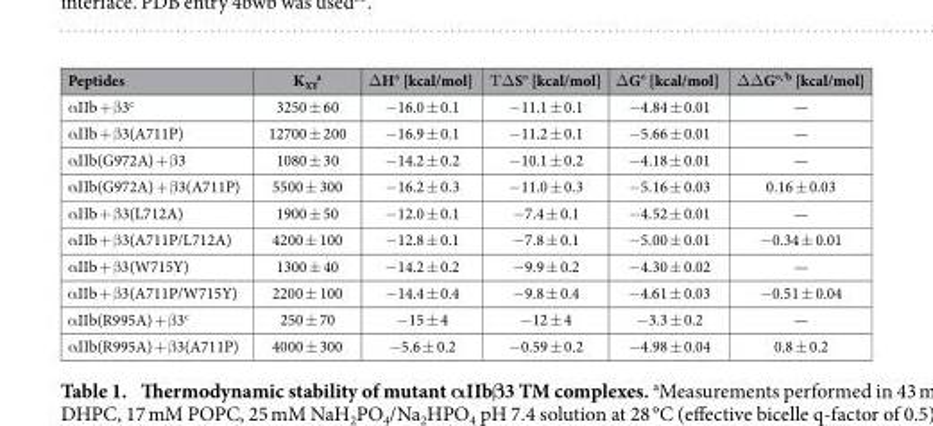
<table><thead><tr><td>Peptides</td><td>K<sub>XY</sub> <sup>a</sup></td><td>Δ H° [kcal/mol]</td><td>Τ Δ S° [kcal/mol]</td><td>Δ G° [kcal/mol]</td><td>Δ Δ G°<sup>,′b</sup> [kcal/mol]</td></tr></thead><tbody><tr><td>α IIb + β 3<sup>c</sup></td><td>3250 ± 60</td><td>− 16.0 ± 0.1</td><td>− 11.1 ± 0.1</td><td>− 4.84 ± 0.01</td><td>—</td></tr><tr><td>α IIb + β 3(A711P)</td><td>12700 ± 200</td><td>− 16.9 ± 0.1</td><td>− 11.2 ± 0.1</td><td>− 5.66 ± 0.01</td><td>—</td></tr><tr><td>α IIb(G972A) + β 3</td><td>1080 ± 30</td><td>− 14.2 ± 0.2</td><td>− 10.1 ± 0.2</td><td>− 4.18 ± 0.01</td><td>—</td></tr><tr><td>α IIb(G972A) + β 3(A711P)</td><td>5500 ± 300</td><td>− 16.2 ± 0.3</td><td>− 11.0 ± 0.3</td><td>− 5.16 ± 0.03</td><td>0.16 ± 0.03</td></tr><tr><td>α IIb + β 3(L712A)</td><td>1900 ± 50</td><td>− 12.0 ± 0.1</td><td>− 7.4 ± 0.1</td><td>− 4.52 ± 0.01</td><td>—</td></tr><tr><td>α IIb + β 3(A711P/L712A)</td><td>4200 ± 100</td><td>− 12.8 ± 0.1</td><td>− 7.8 ± 0.1</td><td>− 5.00 ± 0.01</td><td>− 0.34 ± 0.01</td></tr><tr><td>α IIb + β 3(W715Y)</td><td>1300 ± 40</td><td>− 14.2 ± 0.2</td><td>− 9.9 ± 0.2</td><td>− 4.30 ± 0.02</td><td>—</td></tr><tr><td>α IIb + β 3(A711P/W715Y)</td><td>2200 ± 100</td><td>− 14.4 ± 0.4</td><td>− 9.8 ± 0.4</td><td>− 4.61 ± 0.03</td><td>− 0.51 ± 0.04</td></tr><tr><td>α IIb(R995A) + β 3<sup>c</sup></td><td>250 ± 70</td><td>− 15 ± 4</td><td>− 12 ± 4</td><td>− 3.3 ± 0.2</td><td>—</td></tr><tr><td>α IIb(R995A) + β 3(A711P)</td><td>4000 ± 300</td><td>− 5.6 ± 0.2</td><td>− 0.59 ± 0.2</td><td>− 4.98 ± 0.04</td><td>0.8 ± 0.2</td></tr></tbody></table>